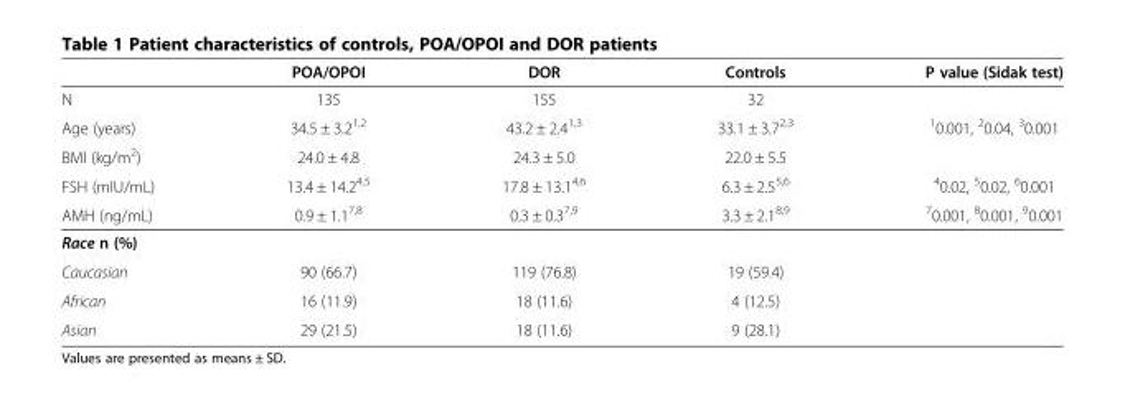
<table><thead><tr><td></td><td>POA/OPOI</td><td>DOR</td><td>Controls</td><td>P value (Sidak test)</td></tr></thead><tbody><tr><td>N</td><td>135</td><td>155</td><td>32</td><td></td></tr><tr><td>Age (years)</td><td>34.5 ± 3.2<sup>1,2</sup></td><td>43.2 ± 2.4<sup>1,3</sup></td><td>33.1 ± 3.7<sup>2,3</sup></td><td><sup>1</sup>0.001, <sup>2</sup>0.04, <sup>3</sup>0.001</td></tr><tr><td>BMI (kg/m<sup>2</sup>)</td><td>24.0 ± 4.8</td><td>24.3 ± 5.0</td><td>22.0 ± 5.5</td><td></td></tr><tr><td>FSH (mIU/mL)</td><td>13.4 ± 14.2<sup>4,5</sup></td><td>17.8 ± 13.1<sup>4,6</sup></td><td>6.3 ± 2.5<sup>5,6</sup></td><td><sup>4</sup>0.02, <sup>5</sup>0.02, <sup>6</sup>0.001</td></tr><tr><td>AMH (ng/mL)</td><td>0.9 ± 1.1<sup>7,8</sup></td><td>0.3 ± 0.3<sup>7,9</sup></td><td>3.3 ± 2.1<sup>8,9</sup></td><td><sup>7</sup>0.001, <sup>8</sup>0.001, <sup>9</sup>0.001</td></tr><tr><td colspan="5">Race n (%)</td></tr><tr><td>Caucasian</td><td>90 (66.7)</td><td>119 (76.8)</td><td>19 (59.4)</td><td></td></tr><tr><td>African</td><td>16 (11.9)</td><td>18 (11.6)</td><td>4 (12.5)</td><td></td></tr><tr><td>Asian</td><td>29 (21.5)</td><td>18 (11.6)</td><td>9 (28.1)</td><td></td></tr></tbody></table>